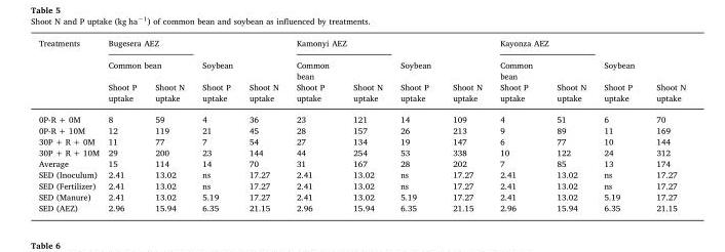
<table><thead><tr><td rowspan="3">Treatments</td><td rowspan="2" colspan="2">Bugesera AEZ Common bean</td><td></td><td></td><td colspan="2">Kamonyi AEZ</td><td rowspan="3">Soybean Shoot P uptake</td><td rowspan="3">Shoot N uptake</td><td colspan="2">Kayonza AEZ</td><td rowspan="3">Soybean Shoot P uptake</td><td rowspan="3">Shoot N uptake</td></tr><tr><td colspan="2">Soybean</td><td rowspan="2">Common bean Shoot P uptake</td><td rowspan="2">Shoot N uptake</td><td rowspan="2">Common bean Shoot P uptake</td><td rowspan="2">Shoot N uptake</td></tr><tr><td>Shoot P uptake</td><td>Shoot N uptake</td><td>Shoot P uptake</td><td>Shoot N uptake</td></tr></thead><tbody><tr><td>0P-R + 0M</td><td>8</td><td>59</td><td>4</td><td>36</td><td>23</td><td>121</td><td>14</td><td>109</td><td>4</td><td>51</td><td>6</td><td>70</td></tr><tr><td>0P-R + 10M</td><td>12</td><td>119</td><td>21</td><td>45</td><td>28</td><td>157</td><td>26</td><td>213</td><td>9</td><td>89</td><td>11</td><td>169</td></tr><tr><td>30P + R + 0M</td><td>11</td><td>77</td><td>7</td><td>54</td><td>27</td><td>134</td><td>19</td><td>147</td><td>6</td><td>77</td><td>10</td><td>144</td></tr><tr><td>30P + R + 10M</td><td>29</td><td>200</td><td>23</td><td>144</td><td>44</td><td>254</td><td>53</td><td>338</td><td>10</td><td>122</td><td>24</td><td>312</td></tr><tr><td>Average</td><td>15</td><td>114</td><td>14</td><td>70</td><td>31</td><td>167</td><td>28</td><td>202</td><td>7</td><td>85</td><td>13</td><td>174</td></tr><tr><td>SED (Inoculum)</td><td>2.41</td><td>13.02</td><td>ns</td><td>17.27</td><td>2.41</td><td>13.02</td><td>ns</td><td>17.27</td><td>2.41</td><td>13.02</td><td>ns</td><td>17.27</td></tr><tr><td>SED (Fertilizer)</td><td>2.41</td><td>13.02</td><td>ns</td><td>17.27</td><td>2.41</td><td>13.02</td><td>ns</td><td>17.27</td><td>2.41</td><td>13.02</td><td>ns</td><td>17.27</td></tr><tr><td>SED (Manure)</td><td>2.41</td><td>13.02</td><td>5.19</td><td>17.27</td><td>2.41</td><td>13.02</td><td>5.19</td><td>17.27</td><td>2.41</td><td>13.02</td><td>5.19</td><td>17.27</td></tr><tr><td>SED (AEZ)</td><td>2.96</td><td>15.94</td><td>6.35</td><td>21.15</td><td>2.96</td><td>15.94</td><td>6.35</td><td>21.15</td><td>2.96</td><td>15.94</td><td>6.35</td><td>21.15</td></tr></tbody></table>